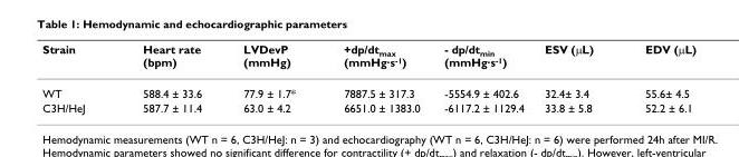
<table><thead><tr><td>Strain</td><td>Heart rate (bpm)</td><td>LVDevP (mmHg)</td><td>+dp/dt<sub>max</sub> (mmHg·s<sup>-1</sup>)</td><td>- dp/dt<sub>min</sub> (mmHg·s<sup>-1</sup>)</td><td>ESV (μL)</td><td>EDV (μL)</td></tr></thead><tbody><tr><td>WT</td><td>588.4 ± 33.6</td><td>77.9 ± 1.7*</td><td>7887.5 ± 317.3</td><td>-5554.9 ± 402.6</td><td>32.4± 3.4</td><td>55.6± 4.5</td></tr><tr><td>C3H/HeJ</td><td>587.7 ± 11.4</td><td>63.0 ± 4.2</td><td>6651.0 ± 1383.0</td><td>-6117.2 ± 1129.4</td><td>33.8 ± 5.8</td><td>52.2 ± 6.1</td></tr></tbody></table>